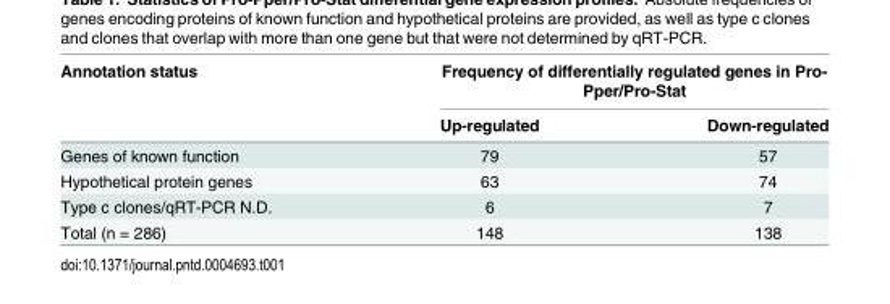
<table><thead><tr><td rowspan="2">Annotation status</td><td colspan="2">Frequency of differentially regulated genes in Pro- Pper/Pro-Stat</td></tr><tr><td>Up-regulated</td><td>Down-regulated</td></tr></thead><tbody><tr><td>Genes of known function</td><td>79</td><td>57</td></tr><tr><td>Hypothetical protein genes</td><td>63</td><td>74</td></tr><tr><td>Type c clones/qRT-PCR N.D.</td><td>6</td><td>7</td></tr><tr><td>Total (n = 286)</td><td>148</td><td>138</td></tr></tbody></table>